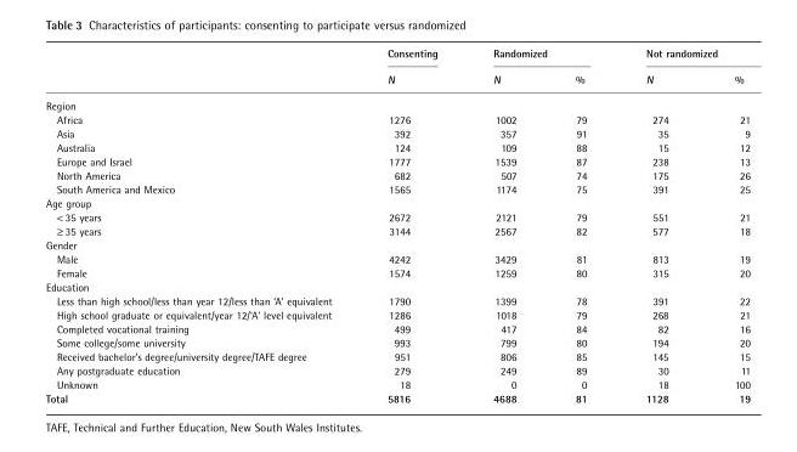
<table><thead><tr><td rowspan="2"></td><td rowspan="2">Consenting N</td><td colspan="2">Randomized</td><td colspan="2">Not randomized</td></tr><tr><td>N</td><td>%</td><td>N</td><td>%</td></tr></thead><tbody><tr><td colspan="6">Region</td></tr><tr><td>Africa</td><td>1276</td><td>1002</td><td>79</td><td>274</td><td>21</td></tr><tr><td>Asia</td><td>392</td><td>357</td><td>91</td><td>35</td><td>9</td></tr><tr><td>Australia</td><td>124</td><td>109</td><td>88</td><td>15</td><td>12</td></tr><tr><td>Europe and Israel</td><td>1777</td><td>1539</td><td>87</td><td>238</td><td>13</td></tr><tr><td>North America</td><td>682</td><td>507</td><td>74</td><td>175</td><td>26</td></tr><tr><td>South America and Mexico</td><td>1565</td><td>1174</td><td>75</td><td>391</td><td>25</td></tr><tr><td colspan="6">Age group</td></tr><tr><td>&lt; 35 years</td><td>2672</td><td>2121</td><td>79</td><td>551</td><td>21</td></tr><tr><td>≥ 35 years</td><td>3144</td><td>2567</td><td>82</td><td>577</td><td>18</td></tr><tr><td colspan="6">Gender</td></tr><tr><td>Male</td><td>4242</td><td>3429</td><td>81</td><td>813</td><td>19</td></tr><tr><td>Female</td><td>1574</td><td>1259</td><td>80</td><td>315</td><td>20</td></tr><tr><td colspan="6">Education</td></tr><tr><td>Less than high school/less than year 12/less than ‘A’ equivalent</td><td>1790</td><td>1399</td><td>78</td><td>391</td><td>22</td></tr><tr><td>High school graduate or equivalent/year 12/‘A’ level equivalent</td><td>1286</td><td>1018</td><td>79</td><td>268</td><td>21</td></tr><tr><td>Completed vocational training</td><td>499</td><td>417</td><td>84</td><td>82</td><td>16</td></tr><tr><td>Some college/some university</td><td>993</td><td>799</td><td>80</td><td>194</td><td>20</td></tr><tr><td>Received bachelor’s degree/university degree/TAFE degree</td><td>951</td><td>806</td><td>85</td><td>145</td><td>15</td></tr><tr><td>Any postgraduate education</td><td>279</td><td>249</td><td>89</td><td>30</td><td>11</td></tr><tr><td>Unknown</td><td>18</td><td>0</td><td>0</td><td>18</td><td>100</td></tr><tr><td>Total</td><td>5816</td><td>4688</td><td>81</td><td>1128</td><td>19</td></tr></tbody></table>